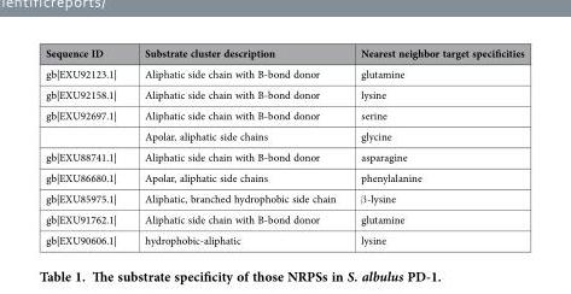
<table><thead><tr><td>Sequence ID</td><td>Substrate cluster description</td><td>Nearest neighbor target specificities</td></tr></thead><tbody><tr><td>gb|EXU92123.1|</td><td>Aliphatic side chain with B-bond donor</td><td>glutamine</td></tr><tr><td>gb|EXU92158.1|</td><td>Aliphatic side chain with B-bond donor</td><td>lysine</td></tr><tr><td rowspan="2">gb|EXU92697.1|</td><td>Aliphatic side chain with B-bond donor</td><td>serine</td></tr><tr><td>Apolar, aliphatic side chains</td><td>glycine</td></tr><tr><td>gb|EXU88741.1|</td><td>Aliphatic side chain with B-bond donor</td><td>asparagine</td></tr><tr><td>gb|EXU86680.1|</td><td>Apolar, aliphatic side chains</td><td>phenylalanine</td></tr><tr><td>gb|EXU85975.1|</td><td>Aliphatic, branched hydrophobic side chain</td><td>β -lysine</td></tr><tr><td>gb|EXU91762.1|</td><td>Aliphatic side chain with B-bond donor</td><td>glutamine</td></tr><tr><td>gb|EXU90606.1|</td><td>hydrophobic-aliphatic</td><td>lysine</td></tr></tbody></table>